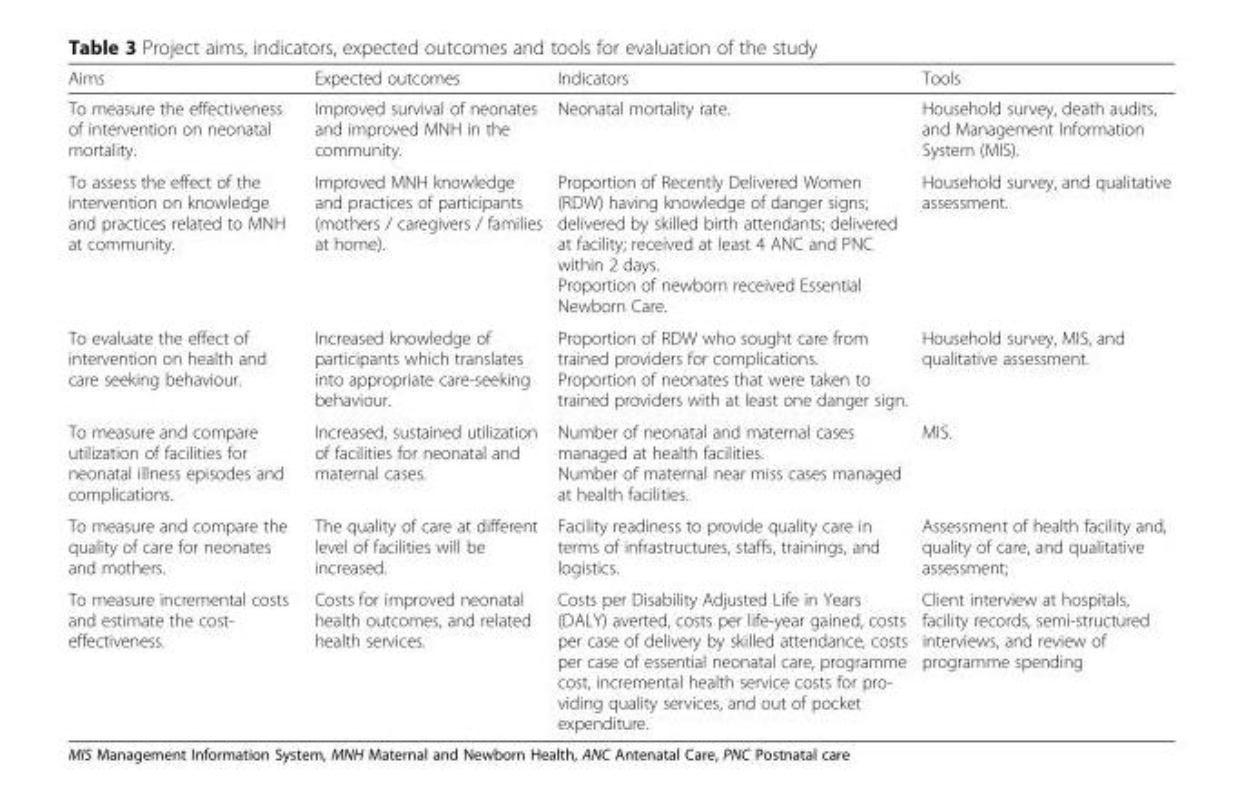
<table><thead><tr><td>Aims</td><td>Expected outcomes</td><td>Indicators</td><td>Tools</td></tr></thead><tbody><tr><td>To measure the effectiveness of intervention on neonatal mortality.</td><td>Improved survival of neonates and improved MNH in the community.</td><td>Neonatal mortality rate.</td><td>Household survey, death audits, and Management Information System (MIS).</td></tr><tr><td>To assess the effect of the intervention on knowledge and practices related to MNH at community.</td><td>Improved MNH knowledge and practices of participants (mothers / caregivers / families at home).</td><td>Proportion of Recently Delivered Women (RDW) having knowledge of danger signs; delivered by skilled birth attendants; delivered at facility; received at least 4 ANC and PNC within 2 days. Proportion of newborn received Essential Newborn Care.</td><td>Household survey, and qualitative assessment.</td></tr><tr><td>To evaluate the effect of intervention on health and care seeking behaviour.</td><td>Increased knowledge of participants which translates into appropriate care-seeking behaviour.</td><td>Proportion of RDW who sought care from trained providers for complications. Proportion of neonates that were taken to trained providers with at least one danger sign.</td><td>Household survey, MIS, and qualitative assessment.</td></tr><tr><td>To measure and compare utilization of facilities for neonatal illness episodes and complications.</td><td>Increased, sustained utilization of facilities for neonatal and maternal cases.</td><td>Number of neonatal and maternal cases managed at health facilities. Number of maternal near miss cases managed at health facilities.</td><td>MIS.</td></tr><tr><td>To measure and compare the quality of care for neonates and mothers.</td><td>The quality of care at different level of facilities will be increased.</td><td>Facility readiness to provide quality care in terms of infrastructures, staffs, trainings, and logistics.</td><td>Assessment of health facility and, quality of care, and qualitative assessment;</td></tr><tr><td>To measure incremental costs and estimate the cost- effectiveness.</td><td>Costs for improved neonatal health outcomes, and related health services.</td><td>Costs per Disability Adjusted Life in Years (DALY) averted, costs per life-year gained, costs per case of delivery by skilled attendance, costs per case of essential neonatal care, programme cost, incremental health service costs for pro- viding quality services, and out of pocket expenditure.</td><td>Client interview at hospitals, facility records, semi-structured interviews, and review of programme spending</td></tr></tbody></table>